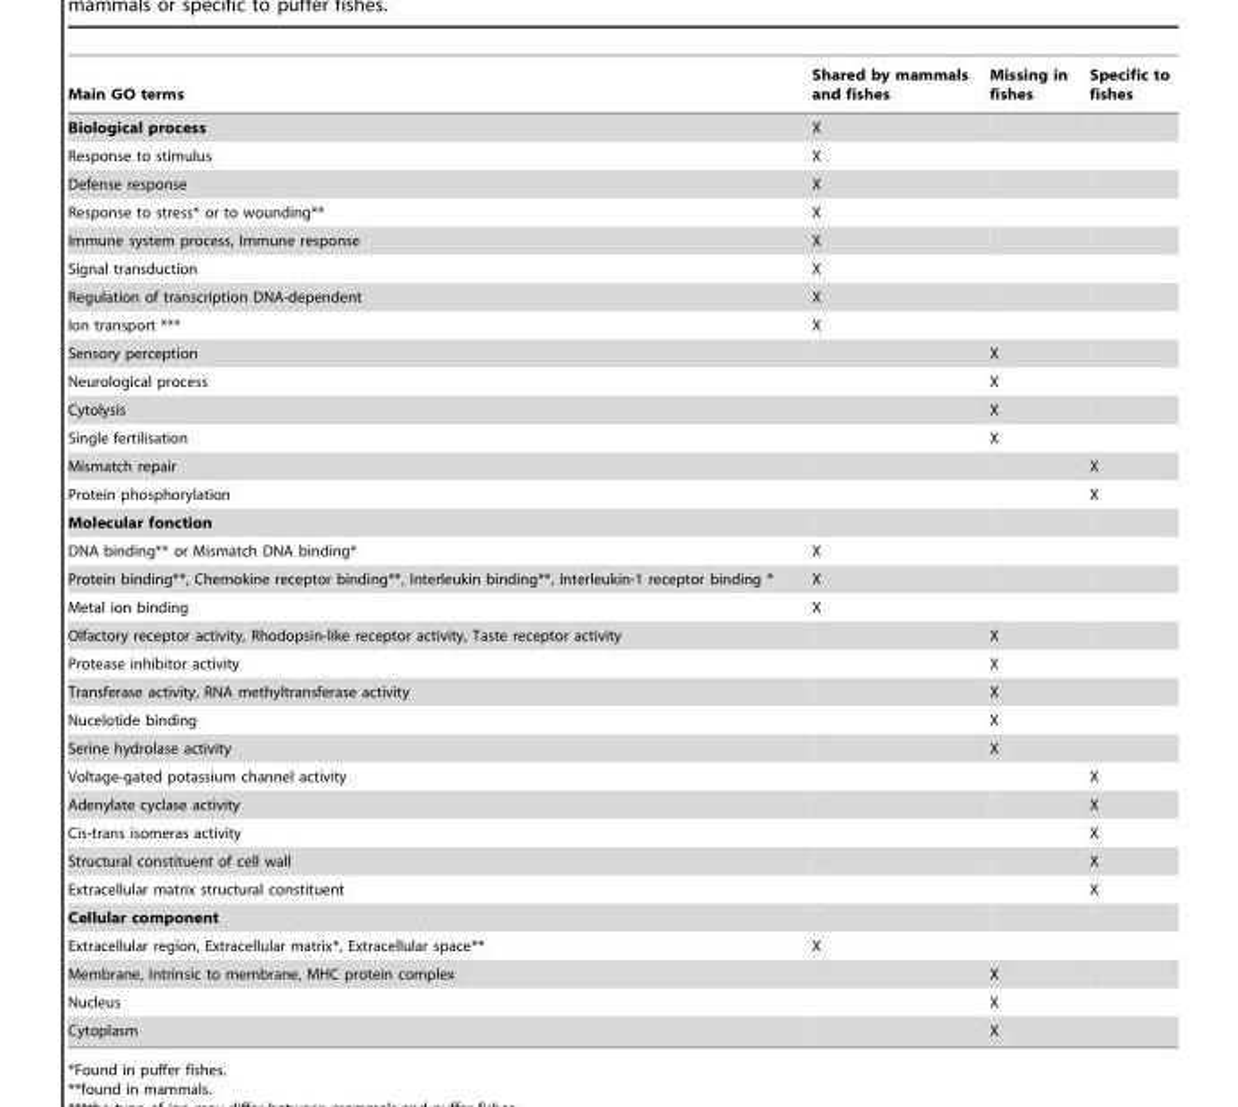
<table><thead><tr><td>Main GO terms</td><td>Shared by mammals and fishes</td><td>Missing in fishes</td><td>Specific to fishes</td></tr></thead><tbody><tr><td>Biological process</td><td>X</td><td></td><td></td></tr><tr><td>Response to stimulus</td><td>X</td><td></td><td></td></tr><tr><td>Defense response</td><td>X</td><td></td><td></td></tr><tr><td>Response to stress* or to wounding**</td><td>X</td><td></td><td></td></tr><tr><td>Immune system process, Immune response</td><td>X</td><td></td><td></td></tr><tr><td>Signal transduction</td><td>X</td><td></td><td></td></tr><tr><td>Regulation of transcription DNA-dependent</td><td>X</td><td></td><td></td></tr><tr><td>Ion transport ***</td><td>X</td><td></td><td></td></tr><tr><td>Sensory perception</td><td></td><td>X</td><td></td></tr><tr><td>Neurological process</td><td></td><td>X</td><td></td></tr><tr><td>Cytolysis</td><td></td><td>X</td><td></td></tr><tr><td>Single fertilisation</td><td></td><td>X</td><td></td></tr><tr><td>Mismatch repair</td><td></td><td></td><td>X</td></tr><tr><td>Protein phosphorylation</td><td></td><td></td><td>X</td></tr><tr><td colspan="4">Molecular fonction</td></tr><tr><td>DNA binding** or Mismatch DNA binding*</td><td>X</td><td></td><td></td></tr><tr><td>Protein binding**, Chemokine receptor binding**, Interleukin binding**, Interleukin-1 receptor binding *</td><td>X</td><td></td><td></td></tr><tr><td>Metal ion binding</td><td>X</td><td></td><td></td></tr><tr><td>Olfactory receptor activity, Rhodopsin-like receptor activity, Taste receptor activity</td><td></td><td>X</td><td></td></tr><tr><td>Protease inhibitor activity</td><td></td><td>X</td><td></td></tr><tr><td>Transferase activity, RNA methyltransferase activity</td><td></td><td>X</td><td></td></tr><tr><td>Nucelotide binding</td><td></td><td>X</td><td></td></tr><tr><td>Serine hydrolase activity</td><td></td><td>X</td><td></td></tr><tr><td>Voltage-gated potassium channel activity</td><td></td><td></td><td>X</td></tr><tr><td>Adenylate cyclase activity</td><td></td><td></td><td>X</td></tr><tr><td>Cis-trans isomeras activity</td><td></td><td></td><td>X</td></tr><tr><td>Structural constituent of cell wall</td><td></td><td></td><td>X</td></tr><tr><td>Extracellular matrix structural constituent</td><td></td><td></td><td>X</td></tr><tr><td colspan="4">Cellular component</td></tr><tr><td>Extracellular region, Extracellular matrix*, Extracellular space**</td><td>X</td><td></td><td></td></tr><tr><td>Membrane, Intrinsic to membrane, MHC protein complex</td><td></td><td>X</td><td></td></tr><tr><td>Nucleus</td><td></td><td>X</td><td></td></tr><tr><td>Cytoplasm</td><td></td><td>X</td><td></td></tr></tbody></table>